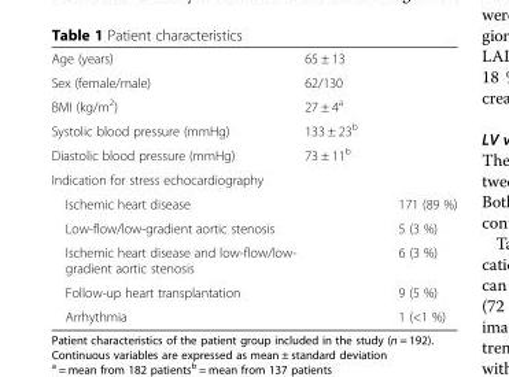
<table><tbody><tr><td>Age (years)</td><td>65 ± 13</td><td></td></tr><tr><td>Sex (female/male)</td><td>62/130</td><td></td></tr><tr><td>BMI (kg/m<sup>2</sup>)</td><td>27 ± 4<sup>a</sup></td><td></td></tr><tr><td>Systolic blood pressure (mmHg)</td><td>133 ± 23<sup>b</sup></td><td></td></tr><tr><td>Diastolic blood pressure (mmHg)</td><td>73 ± 11<sup>b</sup></td><td></td></tr><tr><td colspan="3">Indication for stress echocardiography</td></tr><tr><td colspan="2">Ischemic heart disease</td><td>171 (89 %)</td></tr><tr><td colspan="2">Low-flow/low-gradient aortic stenosis</td><td>5 (3 %)</td></tr><tr><td colspan="2">Ischemic heart disease and low-flow/low- gradient aortic stenosis</td><td>6 (3 %)</td></tr><tr><td colspan="2">Follow-up heart transplantation</td><td>9 (5 %)</td></tr><tr><td colspan="2">Arrhythmia</td><td>1 (&lt;1 %)</td></tr></tbody></table>